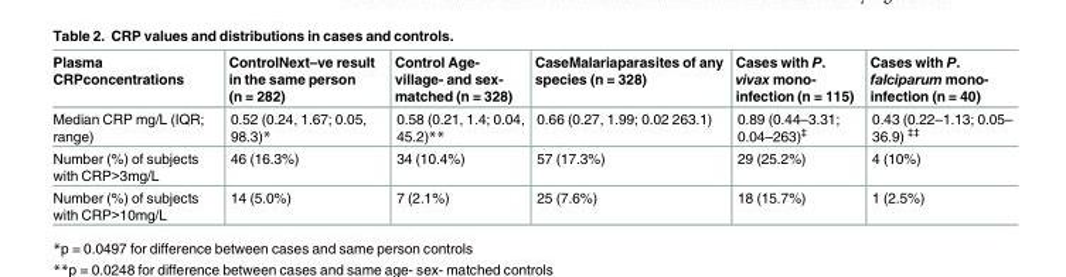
<table><thead><tr><td>Plasma CRPconcentrations</td><td>ControlNext–ve result in the same person (n = 282)</td><td>Control Age- village- and sex- matched (n = 328)</td><td>CaseMalariaparasites of any species (n = 328)</td><td>Cases with P. vivax mono- infection (n = 115)</td><td>Cases with P. falciparum mono- infection (n = 40)</td></tr></thead><tbody><tr><td>Median CRP mg/L (IQR; range)</td><td>0.52 (0.24, 1.67; 0.05, 98.3)*</td><td>0.58 (0.21, 1.4; 0.04, 45.2)**</td><td>0.66 (0.27, 1.99; 0.02 263.1)</td><td>0.89 (0.44–3.31; 0.04–263)<sup>‡</sup></td><td>0.43 (0.22–1.13; 0.05– 36.9) <sup>‡‡</sup></td></tr><tr><td>Number (%) of subjects with CRP&gt;3mg/L</td><td>46 (16.3%)</td><td>34 (10.4%)</td><td>57 (17.3%)</td><td>29 (25.2%)</td><td>4 (10%)</td></tr><tr><td>Number (%) of subjects with CRP&gt;10mg/L</td><td>14 (5.0%)</td><td>7 (2.1%)</td><td>25 (7.6%)</td><td>18 (15.7%)</td><td>1 (2.5%)</td></tr></tbody></table>